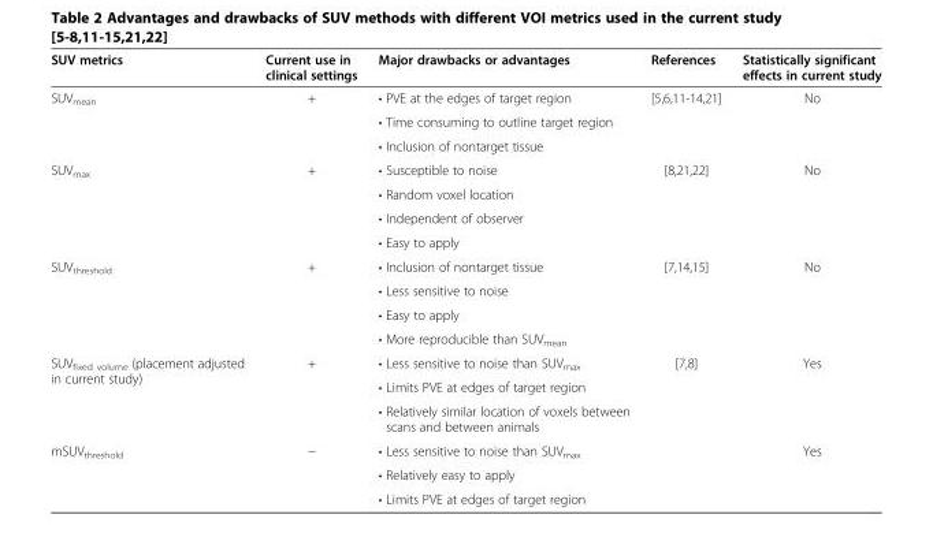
<table><thead><tr><td>SUV metrics</td><td>Current use in clinical settings</td><td>Major drawbacks or advantages</td><td>References</td><td>Statistically significant effects in current study</td></tr></thead><tbody><tr><td rowspan="3">SUV<sub>mean</sub></td><td rowspan="3">+</td><td>• PVE at the edges of target region</td><td rowspan="3">[5,6,11-14,21]</td><td rowspan="3">No</td></tr><tr><td>• Time consuming to outline target region</td></tr><tr><td>• Inclusion of nontarget tissue</td></tr><tr><td rowspan="4">SUV<sub>max</sub></td><td rowspan="4">+</td><td>• Susceptible to noise</td><td rowspan="4">[8,21,22]</td><td rowspan="4">No</td></tr><tr><td>• Random voxel location</td></tr><tr><td>• Independent of observer</td></tr><tr><td>• Easy to apply</td></tr><tr><td rowspan="4">SUV<sub>threshold</sub></td><td rowspan="4">+</td><td>• Inclusion of nontarget tissue</td><td rowspan="4">[7,14,15]</td><td rowspan="4">No</td></tr><tr><td>• Less sensitive to noise</td></tr><tr><td>• Easy to apply</td></tr><tr><td>• More reproducible than SUV<sub>mean</sub></td></tr><tr><td rowspan="3">SUV<sub>fixed volume</sub> (placement adjusted in current study)</td><td rowspan="3">+</td><td>• Less sensitive to noise than SUV<sub>max</sub></td><td rowspan="3">[7,8]</td><td rowspan="3">Yes</td></tr><tr><td>• Limits PVE at edges of target region</td></tr><tr><td>• Relatively similar location of voxels between scans and between animals</td></tr><tr><td rowspan="3">mSUV<sub>threshold</sub></td><td rowspan="3">−</td><td>• Less sensitive to noise than SUV<sub>max</sub></td><td rowspan="3"></td><td rowspan="3">Yes</td></tr><tr><td>• Relatively easy to apply</td></tr><tr><td>• Limits PVE at edges of target region</td></tr></tbody></table>